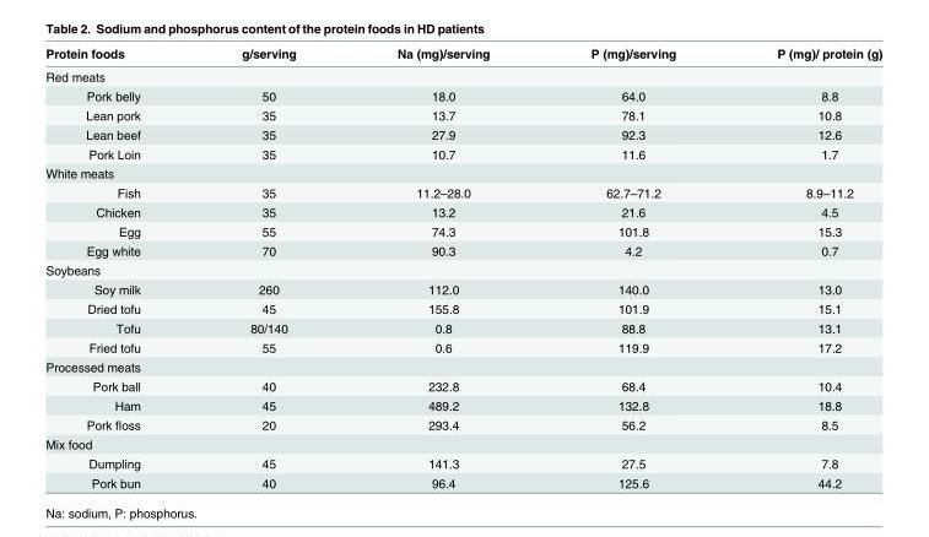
<table><thead><tr><td>Protein foods</td><td>g/serving</td><td>Na (mg)/serving</td><td>P (mg)/serving</td><td>P (mg)/ protein (g)</td></tr></thead><tbody><tr><td colspan="5">Red meats</td></tr><tr><td>Pork belly</td><td>50</td><td>18.0</td><td>64.0</td><td>8.8</td></tr><tr><td>Lean pork</td><td>35</td><td>13.7</td><td>78.1</td><td>10.8</td></tr><tr><td>Lean beef</td><td>35</td><td>27.9</td><td>92.3</td><td>12.6</td></tr><tr><td>Pork Loin</td><td>35</td><td>10.7</td><td>11.6</td><td>1.7</td></tr><tr><td colspan="5">White meats</td></tr><tr><td>Fish</td><td>35</td><td>11.2–28.0</td><td>62.7–71.2</td><td>8.9–11.2</td></tr><tr><td>Chicken</td><td>35</td><td>13.2</td><td>21.6</td><td>4.5</td></tr><tr><td>Egg</td><td>55</td><td>74.3</td><td>101.8</td><td>15.3</td></tr><tr><td>Egg white</td><td>70</td><td>90.3</td><td>4.2</td><td>0.7</td></tr><tr><td colspan="5">Soybeans</td></tr><tr><td>Soy milk</td><td>260</td><td>112.0</td><td>140.0</td><td>13.0</td></tr><tr><td>Dried tofu</td><td>45</td><td>155.8</td><td>101.9</td><td>15.1</td></tr><tr><td>Tofu</td><td>80/140</td><td>0.8</td><td>88.8</td><td>13.1</td></tr><tr><td>Fried tofu</td><td>55</td><td>0.6</td><td>119.9</td><td>17.2</td></tr><tr><td colspan="5">Processed meats</td></tr><tr><td>Pork ball</td><td>40</td><td>232.8</td><td>68.4</td><td>10.4</td></tr><tr><td>Ham</td><td>45</td><td>489.2</td><td>132.8</td><td>18.8</td></tr><tr><td>Pork floss</td><td>20</td><td>293.4</td><td>56.2</td><td>8.5</td></tr><tr><td colspan="5">Mix food</td></tr><tr><td>Dumpling</td><td>45</td><td>141.3</td><td>27.5</td><td>7.8</td></tr><tr><td>Pork bun</td><td>40</td><td>96.4</td><td>125.6</td><td>44.2</td></tr></tbody></table>